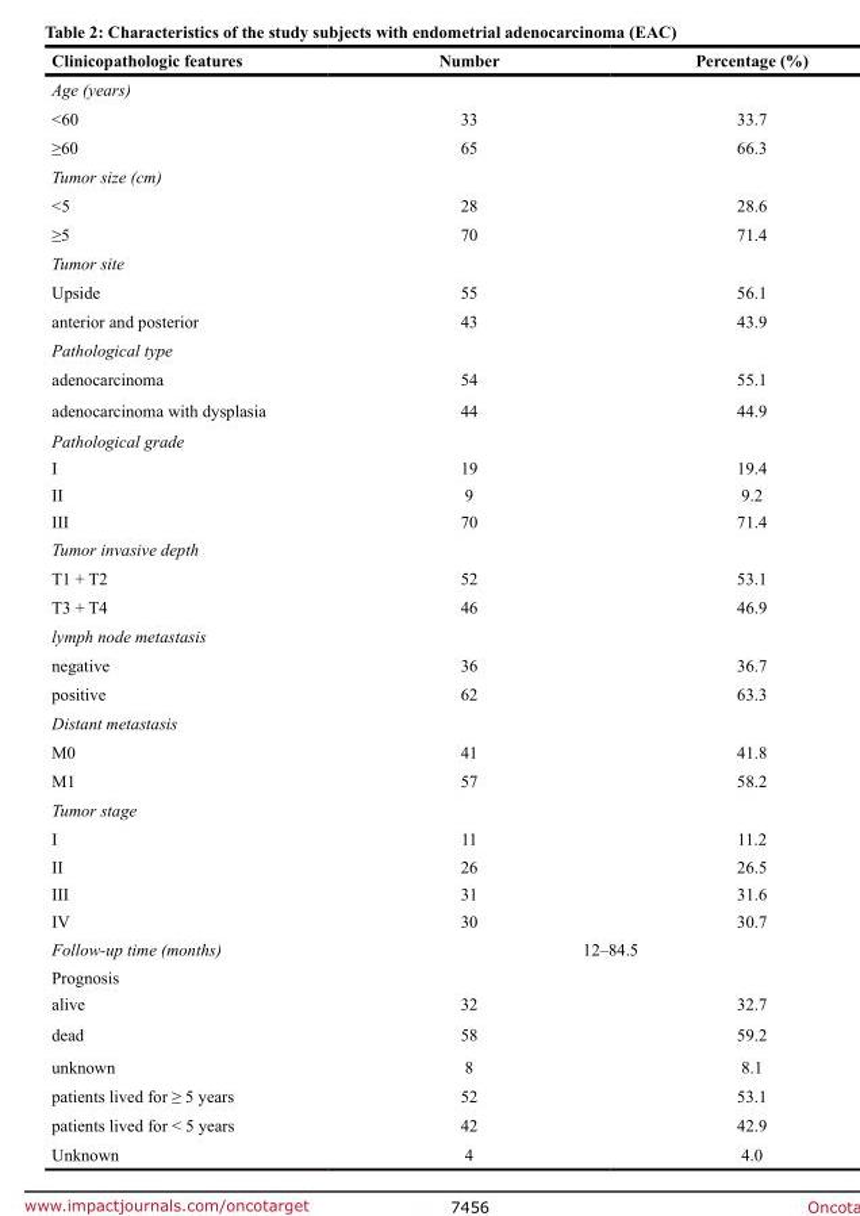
<table><thead><tr><td>Clinicopathologic features</td><td>Number</td><td>Percentage (%)</td></tr></thead><tbody><tr><td colspan="3">Age (years)</td></tr><tr><td>&lt;60</td><td>33</td><td>33.7</td></tr><tr><td>≥60</td><td>65</td><td>66.3</td></tr><tr><td colspan="3">Tumor size (cm)</td></tr><tr><td>&lt;5</td><td>28</td><td>28.6</td></tr><tr><td>≥5</td><td>70</td><td>71.4</td></tr><tr><td colspan="3">Tumor site</td></tr><tr><td>Upside</td><td>55</td><td>56.1</td></tr><tr><td>anterior and posterior</td><td>43</td><td>43.9</td></tr><tr><td colspan="3">Pathological type</td></tr><tr><td>adenocarcinoma</td><td>54</td><td>55.1</td></tr><tr><td>adenocarcinoma with dysplasia</td><td>44</td><td>44.9</td></tr><tr><td colspan="3">Pathological grade</td></tr><tr><td>I</td><td>19</td><td>19.4</td></tr><tr><td>II</td><td>9</td><td>9.2</td></tr><tr><td>III</td><td>70</td><td>71.4</td></tr><tr><td colspan="3">Tumor invasive depth</td></tr><tr><td>T1 + T2</td><td>52</td><td>53.1</td></tr><tr><td>T3 + T4</td><td>46</td><td>46.9</td></tr><tr><td colspan="3">lymph node metastasis</td></tr><tr><td>negative</td><td>36</td><td>36.7</td></tr><tr><td>positive</td><td>62</td><td>63.3</td></tr><tr><td colspan="3">Distant metastasis</td></tr><tr><td>M0</td><td>41</td><td>41.8</td></tr><tr><td>M1</td><td>57</td><td>58.2</td></tr><tr><td colspan="3">Tumor stage</td></tr><tr><td>I</td><td>11</td><td>11.2</td></tr><tr><td>II</td><td>26</td><td>26.5</td></tr><tr><td>III</td><td>31</td><td>31.6</td></tr><tr><td>IV</td><td>30</td><td>30.7</td></tr><tr><td>Follow-up time (months)</td><td colspan="2">12–84.5</td></tr><tr><td colspan="3">Prognosis</td></tr><tr><td>alive</td><td>32</td><td>32.7</td></tr><tr><td>dead</td><td>58</td><td>59.2</td></tr><tr><td>unknown</td><td>8</td><td>8.1</td></tr><tr><td>patients lived for ≥ 5 years</td><td>52</td><td>53.1</td></tr><tr><td>patients lived for &lt; 5 years</td><td>42</td><td>42.9</td></tr><tr><td>Unknown</td><td>4</td><td>4.0</td></tr></tbody></table>